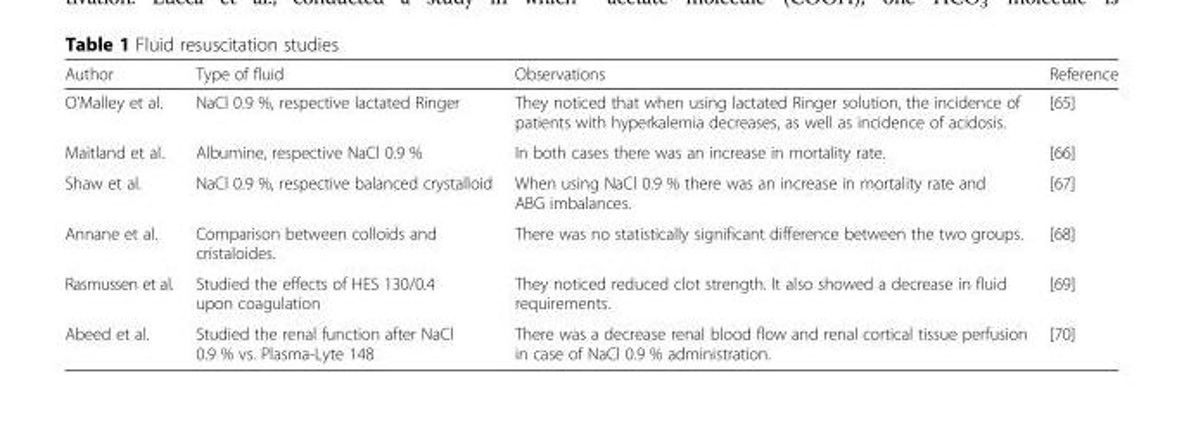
<table><thead><tr><td>Author</td><td>Type of fluid</td><td>Observations</td><td>Reference</td></tr></thead><tbody><tr><td>O’Malley et al.</td><td>NaCl 0.9 %, respective lactated Ringer</td><td>They noticed that when using lactated Ringer solution, the incidence of patients with hyperkalemia decreases, as well as incidence of acidosis.</td><td>[65]</td></tr><tr><td>Maitland et al.</td><td>Albumine, respective NaCl 0.9 %</td><td>In both cases there was an increase in mortality rate.</td><td>[66]</td></tr><tr><td>Shaw et al.</td><td>NaCl 0.9 %, respective balanced crystalloid</td><td>When using NaCl 0.9 % there was an increase in mortality rate and ABG imbalances.</td><td>[67]</td></tr><tr><td>Annane et al.</td><td>Comparison between colloids and cristaloides.</td><td>There was no statistically significant difference between the two groups.</td><td>[68]</td></tr><tr><td>Rasmussen et al.</td><td>Studied the effects of HES 130/0.4 upon coagulation</td><td>They noticed reduced clot strength. It also showed a decrease in fluid requirements.</td><td>[69]</td></tr><tr><td>Abeed et al.</td><td>Studied the renal function after NaCl 0.9 % vs. Plasma-Lyte 148</td><td>There was a decrease renal blood flow and renal cortical tissue perfusion in case of NaCl 0.9 % administration.</td><td>[70]</td></tr></tbody></table>